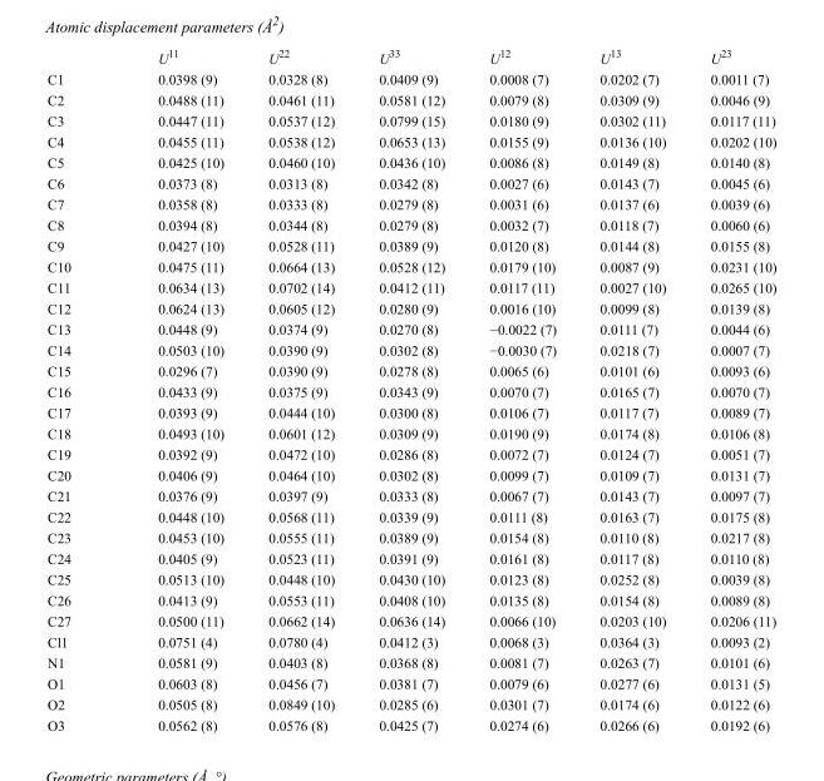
<table><thead><tr><td></td><td>U<sup>11</sup></td><td>U<sup>22</sup></td><td>U<sup>33</sup></td><td>U<sup>12</sup></td><td>U<sup>13</sup></td><td>U<sup>23</sup></td></tr></thead><tbody><tr><td>C1</td><td>0.0398 (9)</td><td>0.0328 (8)</td><td>0.0409 (9)</td><td>0.0008 (7)</td><td>0.0202 (7)</td><td>0.0011 (7)</td></tr><tr><td>C2</td><td>0.0488 (11)</td><td>0.0461 (11)</td><td>0.0581 (12)</td><td>0.0079 (8)</td><td>0.0309 (9)</td><td>0.0046 (9)</td></tr><tr><td>C3</td><td>0.0447 (11)</td><td>0.0537 (12)</td><td>0.0799 (15)</td><td>0.0180 (9)</td><td>0.0302 (11)</td><td>0.0117 (11)</td></tr><tr><td>C4</td><td>0.0455 (11)</td><td>0.0538 (12)</td><td>0.0653 (13)</td><td>0.0155 (9)</td><td>0.0136 (10)</td><td>0.0202 (10)</td></tr><tr><td>C5</td><td>0.0425 (10)</td><td>0.0460 (10)</td><td>0.0436 (10)</td><td>0.0086 (8)</td><td>0.0149 (8)</td><td>0.0140 (8)</td></tr><tr><td>C6</td><td>0.0373 (8)</td><td>0.0313 (8)</td><td>0.0342 (8)</td><td>0.0027 (6)</td><td>0.0143 (7)</td><td>0.0045 (6)</td></tr><tr><td>C7</td><td>0.0358 (8)</td><td>0.0333 (8)</td><td>0.0279 (8)</td><td>0.0031 (6)</td><td>0.0137 (6)</td><td>0.0039 (6)</td></tr><tr><td>C8</td><td>0.0394 (8)</td><td>0.0344 (8)</td><td>0.0279 (8)</td><td>0.0032 (7)</td><td>0.0118 (7)</td><td>0.0060 (6)</td></tr><tr><td>C9</td><td>0.0427 (10)</td><td>0.0528 (11)</td><td>0.0389 (9)</td><td>0.0120 (8)</td><td>0.0144 (8)</td><td>0.0155 (8)</td></tr><tr><td>C10</td><td>0.0475 (11)</td><td>0.0664 (13)</td><td>0.0528 (12)</td><td>0.0179 (10)</td><td>0.0087 (9)</td><td>0.0231 (10)</td></tr><tr><td>C11</td><td>0.0634 (13)</td><td>0.0702 (14)</td><td>0.0412 (11)</td><td>0.0117 (11)</td><td>0.0027 (10)</td><td>0.0265 (10)</td></tr><tr><td>C12</td><td>0.0624 (13)</td><td>0.0605 (12)</td><td>0.0280 (9)</td><td>0.0016 (10)</td><td>0.0099 (8)</td><td>0.0139 (8)</td></tr><tr><td>C13</td><td>0.0448 (9)</td><td>0.0374 (9)</td><td>0.0270 (8)</td><td>−0.0022 (7)</td><td>0.0111 (7)</td><td>0.0044 (6)</td></tr><tr><td>C14</td><td>0.0503 (10)</td><td>0.0390 (9)</td><td>0.0302 (8)</td><td>−0.0030 (7)</td><td>0.0218 (7)</td><td>0.0007 (7)</td></tr><tr><td>C15</td><td>0.0296 (7)</td><td>0.0390 (9)</td><td>0.0278 (8)</td><td>0.0065 (6)</td><td>0.0101 (6)</td><td>0.0093 (6)</td></tr><tr><td>C16</td><td>0.0433 (9)</td><td>0.0375 (9)</td><td>0.0343 (9)</td><td>0.0070 (7)</td><td>0.0165 (7)</td><td>0.0070 (7)</td></tr><tr><td>C17</td><td>0.0393 (9)</td><td>0.0444 (10)</td><td>0.0300 (8)</td><td>0.0106 (7)</td><td>0.0117 (7)</td><td>0.0089 (7)</td></tr><tr><td>C18</td><td>0.0493 (10)</td><td>0.0601 (12)</td><td>0.0309 (9)</td><td>0.0190 (9)</td><td>0.0174 (8)</td><td>0.0106 (8)</td></tr><tr><td>C19</td><td>0.0392 (9)</td><td>0.0472 (10)</td><td>0.0286 (8)</td><td>0.0072 (7)</td><td>0.0124 (7)</td><td>0.0051 (7)</td></tr><tr><td>C20</td><td>0.0406 (9)</td><td>0.0464 (10)</td><td>0.0302 (8)</td><td>0.0099 (7)</td><td>0.0109 (7)</td><td>0.0131 (7)</td></tr><tr><td>C21</td><td>0.0376 (9)</td><td>0.0397 (9)</td><td>0.0333 (8)</td><td>0.0067 (7)</td><td>0.0143 (7)</td><td>0.0097 (7)</td></tr><tr><td>C22</td><td>0.0448 (10)</td><td>0.0568 (11)</td><td>0.0339 (9)</td><td>0.0111 (8)</td><td>0.0163 (7)</td><td>0.0175 (8)</td></tr><tr><td>C23</td><td>0.0453 (10)</td><td>0.0555 (11)</td><td>0.0389 (9)</td><td>0.0154 (8)</td><td>0.0110 (8)</td><td>0.0217 (8)</td></tr><tr><td>C24</td><td>0.0405 (9)</td><td>0.0523 (11)</td><td>0.0391 (9)</td><td>0.0161 (8)</td><td>0.0117 (8)</td><td>0.0110 (8)</td></tr><tr><td>C25</td><td>0.0513 (10)</td><td>0.0448 (10)</td><td>0.0430 (10)</td><td>0.0123 (8)</td><td>0.0252 (8)</td><td>0.0039 (8)</td></tr><tr><td>C26</td><td>0.0413 (9)</td><td>0.0553 (11)</td><td>0.0408 (10)</td><td>0.0135 (8)</td><td>0.0154 (8)</td><td>0.0089 (8)</td></tr><tr><td>C27</td><td>0.0500 (11)</td><td>0.0662 (14)</td><td>0.0636 (14)</td><td>0.0066 (10)</td><td>0.0203 (10)</td><td>0.0206 (11)</td></tr><tr><td>Cl1</td><td>0.0751 (4)</td><td>0.0780 (4)</td><td>0.0412 (3)</td><td>0.0068 (3)</td><td>0.0364 (3)</td><td>0.0093 (2)</td></tr><tr><td>N1</td><td>0.0581 (9)</td><td>0.0403 (8)</td><td>0.0368 (8)</td><td>0.0081 (7)</td><td>0.0263 (7)</td><td>0.0101 (6)</td></tr><tr><td>O1</td><td>0.0603 (8)</td><td>0.0456 (7)</td><td>0.0381 (7)</td><td>0.0079 (6)</td><td>0.0277 (6)</td><td>0.0131 (5)</td></tr><tr><td>O2</td><td>0.0505 (8)</td><td>0.0849 (10)</td><td>0.0285 (6)</td><td>0.0301 (7)</td><td>0.0174 (6)</td><td>0.0122 (6)</td></tr><tr><td>O3</td><td>0.0562 (8)</td><td>0.0576 (8)</td><td>0.0425 (7)</td><td>0.0274 (6)</td><td>0.0266 (6)</td><td>0.0192 (6)</td></tr></tbody></table>